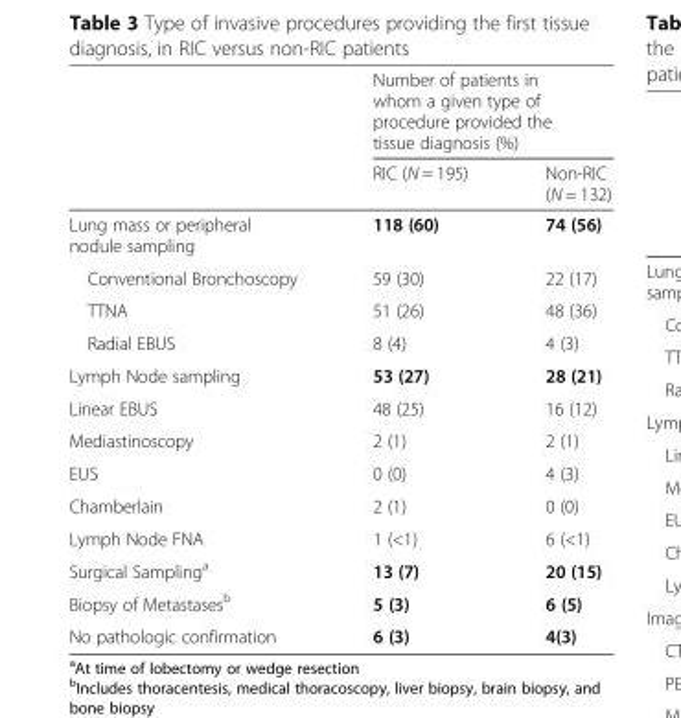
<table><thead><tr><td rowspan="2"></td><td colspan="2">Number of patients in whom a given type of procedure provided the tissue diagnosis (%)</td></tr><tr><td>RIC (N = 195)</td><td>Non-RIC (N = 132)</td></tr></thead><tbody><tr><td>Lung mass or peripheral nodule sampling</td><td>118 (60)</td><td>74 (56)</td></tr><tr><td>Conventional Bronchoscopy</td><td>59 (30)</td><td>22 (17)</td></tr><tr><td>TTNA</td><td>51 (26)</td><td>48 (36)</td></tr><tr><td>Radial EBUS</td><td>8 (4)</td><td>4 (3)</td></tr><tr><td>Lymph Node sampling</td><td>53 (27)</td><td>28 (21)</td></tr><tr><td>Linear EBUS</td><td>48 (25)</td><td>16 (12)</td></tr><tr><td>Mediastinoscopy</td><td>2 (1)</td><td>2 (1)</td></tr><tr><td>EUS</td><td>0 (0)</td><td>4 (3)</td></tr><tr><td>Chamberlain</td><td>2 (1)</td><td>0 (0)</td></tr><tr><td>Lymph Node FNA</td><td>1 (&lt;1)</td><td>6 (&lt;1)</td></tr><tr><td>Surgical Sampling<sup>a</sup></td><td>13 (7)</td><td>20 (15)</td></tr><tr><td>Biopsy of Metastases<sup>b</sup></td><td>5 (3)</td><td>6 (5)</td></tr><tr><td>No pathologic confirmation</td><td>6 (3)</td><td>4(3)</td></tr></tbody></table>